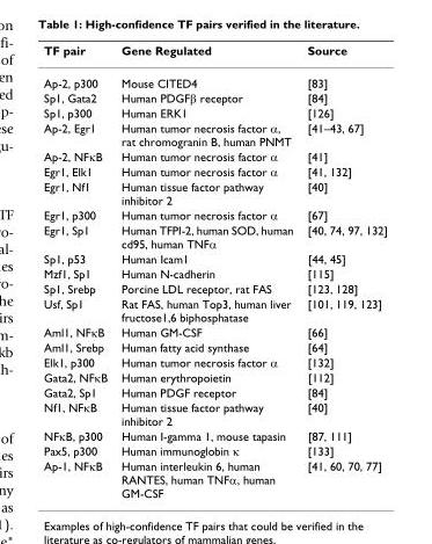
<table><thead><tr><td>TF pair</td><td>Gene Regulated</td><td>Source</td></tr></thead><tbody><tr><td>Ap-2, p300</td><td>Mouse CITED4</td><td>[83]</td></tr><tr><td>Sp1, Gata2</td><td>Human PDGFβ receptor</td><td>[84]</td></tr><tr><td>Sp1, p300</td><td>Human ERK1</td><td>[126]</td></tr><tr><td>Ap-2, Egr1</td><td>Human tumor necrosis factor α, rat chromogranin B, human PNMT</td><td>[41–43, 67]</td></tr><tr><td>Ap-2, NFκB</td><td>Human tumor necrosis factor α</td><td>[41]</td></tr><tr><td>Egr1, Elk1</td><td>Human tumor necrosis factor α</td><td>[41, 132]</td></tr><tr><td>Egr1, Nf1</td><td>Human tissue factor pathway inhibitor 2</td><td>[40]</td></tr><tr><td>Egr1, p300</td><td>Human tumor necrosis factor α</td><td>[67]</td></tr><tr><td>Egr1, Sp1</td><td>Human TFPI-2, human SOD, human cd95, human TNFα</td><td>[40, 74, 97, 132]</td></tr><tr><td>Sp1, p53</td><td>Human Icam1</td><td>[44, 45]</td></tr><tr><td>Mzf1, Sp1</td><td>Human N-cadherin</td><td>[115]</td></tr><tr><td>Sp1, Srebp</td><td>Porcine LDL receptor, rat FAS</td><td>[123, 128]</td></tr><tr><td>Usf, Sp1</td><td>Rat FAS, human Top3, human liver fructose1,6 biphosphatase</td><td>[101, 119, 123]</td></tr><tr><td>Aml1, NFκB</td><td>Human GM-CSF</td><td>[66]</td></tr><tr><td>Aml1, Srebp</td><td>Human fatty acid synthase</td><td>[64]</td></tr><tr><td>Elk1, p300</td><td>Human tumor necrosis factor α</td><td>[132]</td></tr><tr><td>Gata2, NFκB</td><td>Human erythropoietin</td><td>[112]</td></tr><tr><td>Gata2, Sp1</td><td>Human PDGF receptor</td><td>[84]</td></tr><tr><td>Nf1, NFκB</td><td>Human tissue factor pathway inhibitor 2</td><td>[40]</td></tr><tr><td>NFκB, p300</td><td>Human I-gamma 1, mouse tapasin</td><td>[87, 111]</td></tr><tr><td>Pax5, p300</td><td>Human immunoglobin κ</td><td>[133]</td></tr><tr><td>Ap-1, NFκB</td><td>Human interleukin 6, human RANTES, human TNFα, human GM-CSF</td><td>[41, 60, 70, 77]</td></tr></tbody></table>